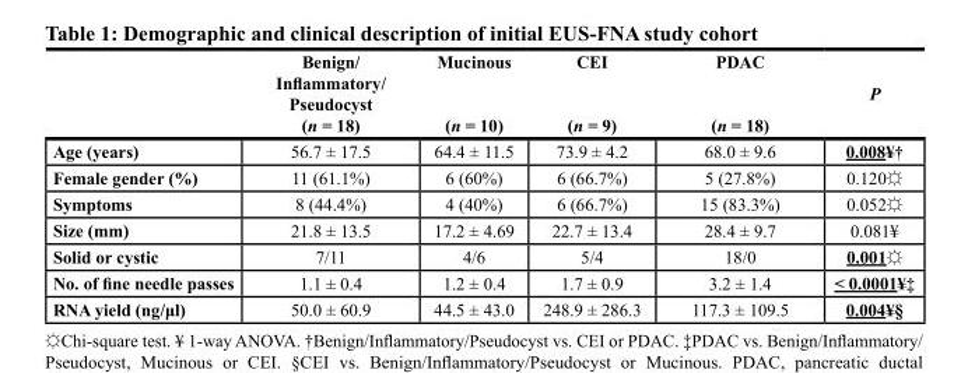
<table><thead><tr><td></td><td>Benign/ Inflammatory/ Pseudocyst (n = 18)</td><td>Mucinous (n = 10)</td><td>CEI (n = 9)</td><td>PDAC (n = 18)</td><td>P</td></tr></thead><tbody><tr><td>Age (years)</td><td>56.7 ± 17.5</td><td>64.4 ± 11.5</td><td>73.9 ± 4.2</td><td>68.0 ± 9.6</td><td>0.008¥<sup>†</sup></td></tr><tr><td>Female gender (%)</td><td>11 (61.1%)</td><td>6 (60%)</td><td>6 (66.7%)</td><td>5 (27.8%)</td><td>0.120<sup>☼</sup></td></tr><tr><td>Symptoms</td><td>8 (44.4%)</td><td>4 (40%)</td><td>6 (66.7%)</td><td>15 (83.3%)</td><td>0.052<sup>☼</sup></td></tr><tr><td>Size (mm)</td><td>21.8 ± 13.5</td><td>17.2 ± 4.69</td><td>22.7 ± 13.4</td><td>28.4 ± 9.7</td><td>0.081<sup>¥</sup></td></tr><tr><td>Solid or cystic</td><td>7/11</td><td>4/6</td><td>5/4</td><td>18/0</td><td>0.001<sup>☼</sup></td></tr><tr><td>No. of fine needle passes</td><td>1.1 ± 0.4</td><td>1.2 ± 0.4</td><td>1.7 ± 0.9</td><td>3.2 ± 1.4</td><td>&lt; 0.0001<sup>¥‡</sup></td></tr><tr><td>RNA yield (ng/μl)</td><td>50.0 ± 60.9</td><td>44.5 ± 43.0</td><td>248.9 ± 286.3</td><td>117.3 ± 109.5</td><td>0.004<sup>¥§</sup></td></tr></tbody></table>